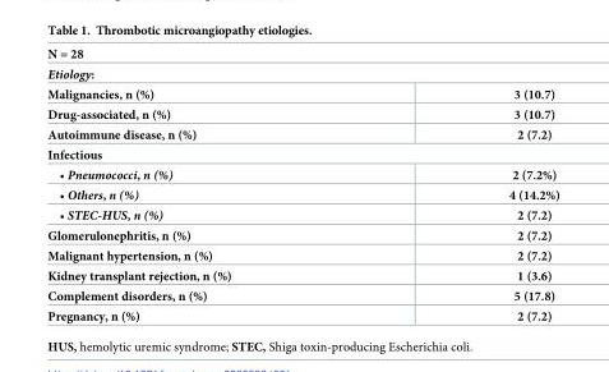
<table><thead><tr><td rowspan="2" colspan="2">N = 28 Etiology:</td></tr><tr></tr><tr><td>Malignancies, n (%)</td><td>3 (10.7)</td></tr></thead><tbody><tr><td>Drug-associated, n (%)</td><td>3 (10.7)</td></tr><tr><td>Autoimmune disease, n (%)</td><td>2 (7.2)</td></tr><tr><td colspan="2">Infectious</td></tr><tr><td>• Pneumococci, n (%)</td><td>2 (7.2%)</td></tr><tr><td>• Others, n (%)</td><td>4 (14.2%)</td></tr><tr><td>• STEC-HUS, n (%)</td><td>2 (7.2)</td></tr><tr><td>Glomerulonephritis, n (%)</td><td>2 (7.2)</td></tr><tr><td>Malignant hypertension, n (%)</td><td>2 (7.2)</td></tr><tr><td>Kidney transplant rejection, n (%)</td><td>1 (3.6)</td></tr><tr><td>Complement disorders, n (%)</td><td>5 (17.8)</td></tr><tr><td>Pregnancy, n (%)</td><td>2 (7.2)</td></tr></tbody></table>